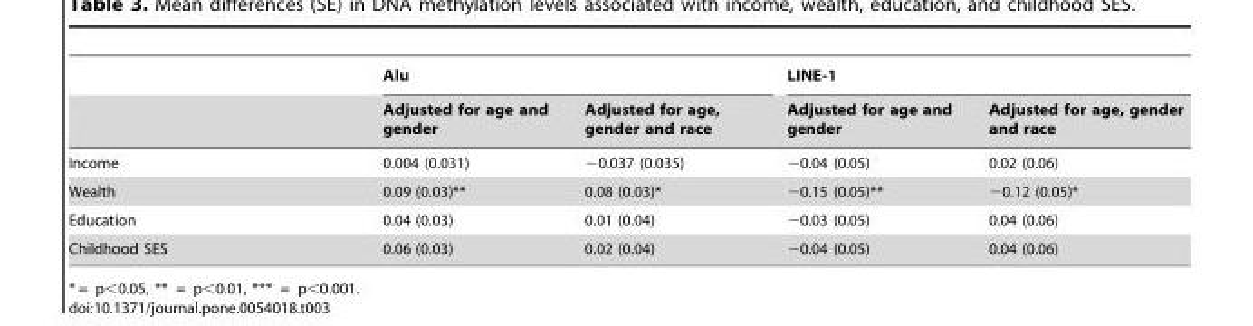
<table><thead><tr><td rowspan="2"></td><td colspan="2">Alu</td><td colspan="2">LINE-1</td></tr><tr><td>Adjusted for age and gender</td><td>Adjusted for age, gender and race</td><td>Adjusted for age and gender</td><td>Adjusted for age, gender and race</td></tr></thead><tbody><tr><td>Income</td><td>0.004 (0.031)</td><td>−0.037 (0.035)</td><td>−0.04 (0.05)</td><td>0.02 (0.06)</td></tr><tr><td>Wealth</td><td>0.09 (0.03)**</td><td>0.08 (0.03)*</td><td>−0.15 (0.05)**</td><td>−0.12 (0.05)*</td></tr><tr><td>Education</td><td>0.04 (0.03)</td><td>0.01 (0.04)</td><td>−0.03 (0.05)</td><td>0.04 (0.06)</td></tr><tr><td>Childhood SES</td><td>0.06 (0.03)</td><td>0.02 (0.04)</td><td>−0.04 (0.05)</td><td>0.04 (0.06)</td></tr></tbody></table>